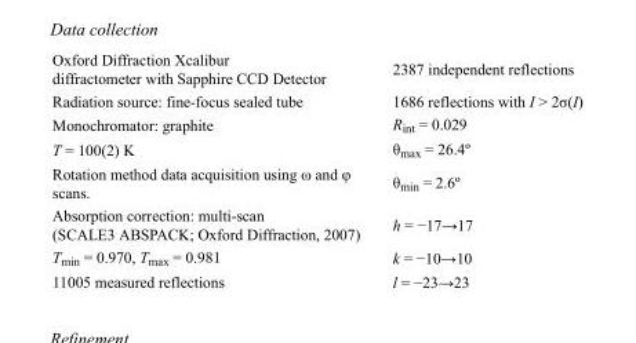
<table><tbody><tr><td>Oxford Diffraction Xcalibur diffractometer with Sapphire CCD Detector</td><td>2387 independent reflections</td></tr><tr><td>Radiation source: fine-focus sealed tube</td><td>1686 reflections with I &gt; 2σ(I)</td></tr><tr><td>Monochromator: graphite</td><td>R<sub>int</sub> = 0.029</td></tr><tr><td>T = 100(2) K</td><td>θ<sub>max</sub> = 26.4º</td></tr><tr><td>Rotation method data acquisition using ω and φ scans.</td><td>θ<sub>min</sub> = 2.6º</td></tr><tr><td>Absorption correction: multi-scan (SCALE3 ABSPACK; Oxford Diffraction, 2007)</td><td>h = −17→17</td></tr><tr><td>T<sub>min</sub> = 0.970, T<sub>max</sub> = 0.981</td><td>k = −10→10</td></tr><tr><td>11005 measured reflections</td><td>l = −23→23</td></tr></tbody></table>